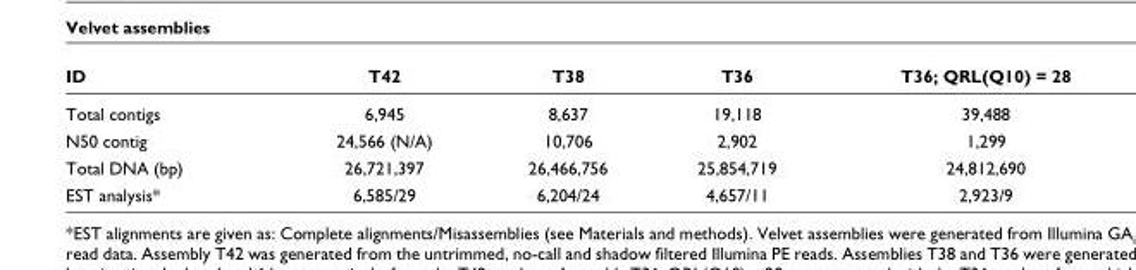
<table><thead><tr><td>ID</td><td>T42</td><td>T38</td><td>T36</td><td>T36; QRL(Q10) = 28</td></tr></thead><tbody><tr><td>Total contigs</td><td>6,945</td><td>8,637</td><td>19,118</td><td>39,488</td></tr><tr><td>N50 contig</td><td>24,566 (N/A)</td><td>10,706</td><td>2,902</td><td>1,299</td></tr><tr><td>Total DNA (bp)</td><td>26,721,397</td><td>26,466,756</td><td>25,854,719</td><td>24,812,690</td></tr><tr><td>EST analysis*</td><td>6,585/29</td><td>6,204/24</td><td>4,657/11</td><td>2,923/9</td></tr></tbody></table>